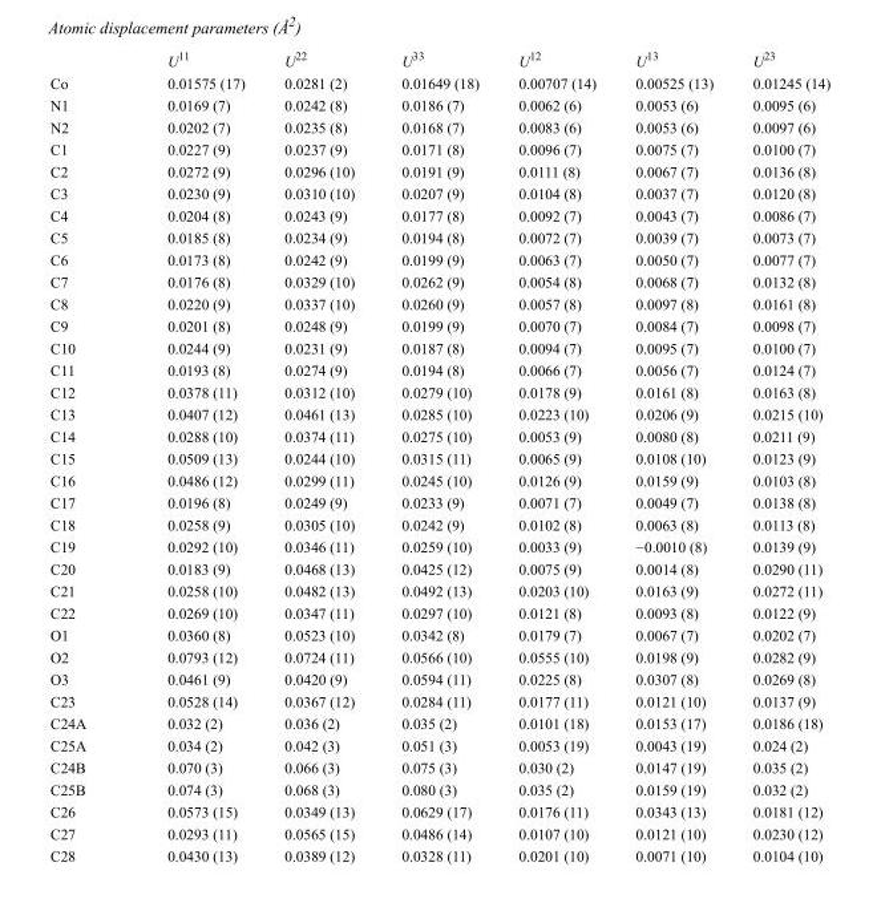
<table><thead><tr><td></td><td>U<sup>11</sup></td><td>U<sup>22</sup></td><td>U<sup>33</sup></td><td>U<sup>12</sup></td><td>U<sup>13</sup></td><td>U<sup>23</sup></td></tr></thead><tbody><tr><td>Co</td><td>0.01575 (17)</td><td>0.0281 (2)</td><td>0.01649 (18)</td><td>0.00707 (14)</td><td>0.00525 (13)</td><td>0.01245 (14)</td></tr><tr><td>N1</td><td>0.0169 (7)</td><td>0.0242 (8)</td><td>0.0186 (7)</td><td>0.0062 (6)</td><td>0.0053 (6)</td><td>0.0095 (6)</td></tr><tr><td>N2</td><td>0.0202 (7)</td><td>0.0235 (8)</td><td>0.0168 (7)</td><td>0.0083 (6)</td><td>0.0053 (6)</td><td>0.0097 (6)</td></tr><tr><td>C1</td><td>0.0227 (9)</td><td>0.0237 (9)</td><td>0.0171 (8)</td><td>0.0096 (7)</td><td>0.0075 (7)</td><td>0.0100 (7)</td></tr><tr><td>C2</td><td>0.0272 (9)</td><td>0.0296 (10)</td><td>0.0191 (9)</td><td>0.0111 (8)</td><td>0.0067 (7)</td><td>0.0136 (8)</td></tr><tr><td>C3</td><td>0.0230 (9)</td><td>0.0310 (10)</td><td>0.0207 (9)</td><td>0.0104 (8)</td><td>0.0037 (7)</td><td>0.0120 (8)</td></tr><tr><td>C4</td><td>0.0204 (8)</td><td>0.0243 (9)</td><td>0.0177 (8)</td><td>0.0092 (7)</td><td>0.0043 (7)</td><td>0.0086 (7)</td></tr><tr><td>C5</td><td>0.0185 (8)</td><td>0.0234 (9)</td><td>0.0194 (8)</td><td>0.0072 (7)</td><td>0.0039 (7)</td><td>0.0073 (7)</td></tr><tr><td>C6</td><td>0.0173 (8)</td><td>0.0242 (9)</td><td>0.0199 (9)</td><td>0.0063 (7)</td><td>0.0050 (7)</td><td>0.0077 (7)</td></tr><tr><td>C7</td><td>0.0176 (8)</td><td>0.0329 (10)</td><td>0.0262 (9)</td><td>0.0054 (8)</td><td>0.0068 (7)</td><td>0.0132 (8)</td></tr><tr><td>C8</td><td>0.0220 (9)</td><td>0.0337 (10)</td><td>0.0260 (9)</td><td>0.0057 (8)</td><td>0.0097 (8)</td><td>0.0161 (8)</td></tr><tr><td>C9</td><td>0.0201 (8)</td><td>0.0248 (9)</td><td>0.0199 (9)</td><td>0.0070 (7)</td><td>0.0084 (7)</td><td>0.0098 (7)</td></tr><tr><td>C10</td><td>0.0244 (9)</td><td>0.0231 (9)</td><td>0.0187 (8)</td><td>0.0094 (7)</td><td>0.0095 (7)</td><td>0.0100 (7)</td></tr><tr><td>C11</td><td>0.0193 (8)</td><td>0.0274 (9)</td><td>0.0194 (8)</td><td>0.0066 (7)</td><td>0.0056 (7)</td><td>0.0124 (7)</td></tr><tr><td>C12</td><td>0.0378 (11)</td><td>0.0312 (10)</td><td>0.0279 (10)</td><td>0.0178 (9)</td><td>0.0161 (8)</td><td>0.0163 (8)</td></tr><tr><td>C13</td><td>0.0407 (12)</td><td>0.0461 (13)</td><td>0.0285 (10)</td><td>0.0223 (10)</td><td>0.0206 (9)</td><td>0.0215 (10)</td></tr><tr><td>C14</td><td>0.0288 (10)</td><td>0.0374 (11)</td><td>0.0275 (10)</td><td>0.0053 (9)</td><td>0.0080 (8)</td><td>0.0211 (9)</td></tr><tr><td>C15</td><td>0.0509 (13)</td><td>0.0244 (10)</td><td>0.0315 (11)</td><td>0.0065 (9)</td><td>0.0108 (10)</td><td>0.0123 (9)</td></tr><tr><td>C16</td><td>0.0486 (12)</td><td>0.0299 (11)</td><td>0.0245 (10)</td><td>0.0126 (9)</td><td>0.0159 (9)</td><td>0.0103 (8)</td></tr><tr><td>C17</td><td>0.0196 (8)</td><td>0.0249 (9)</td><td>0.0233 (9)</td><td>0.0071 (7)</td><td>0.0049 (7)</td><td>0.0138 (8)</td></tr><tr><td>C18</td><td>0.0258 (9)</td><td>0.0305 (10)</td><td>0.0242 (9)</td><td>0.0102 (8)</td><td>0.0063 (8)</td><td>0.0113 (8)</td></tr><tr><td>C19</td><td>0.0292 (10)</td><td>0.0346 (11)</td><td>0.0259 (10)</td><td>0.0033 (9)</td><td>−0.0010 (8)</td><td>0.0139 (9)</td></tr><tr><td>C20</td><td>0.0183 (9)</td><td>0.0468 (13)</td><td>0.0425 (12)</td><td>0.0075 (9)</td><td>0.0014 (8)</td><td>0.0290 (11)</td></tr><tr><td>C21</td><td>0.0258 (10)</td><td>0.0482 (13)</td><td>0.0492 (13)</td><td>0.0203 (10)</td><td>0.0163 (9)</td><td>0.0272 (11)</td></tr><tr><td>C22</td><td>0.0269 (10)</td><td>0.0347 (11)</td><td>0.0297 (10)</td><td>0.0121 (8)</td><td>0.0093 (8)</td><td>0.0122 (9)</td></tr><tr><td>O1</td><td>0.0360 (8)</td><td>0.0523 (10)</td><td>0.0342 (8)</td><td>0.0179 (7)</td><td>0.0067 (7)</td><td>0.0202 (7)</td></tr><tr><td>O2</td><td>0.0793 (12)</td><td>0.0724 (11)</td><td>0.0566 (10)</td><td>0.0555 (10)</td><td>0.0198 (9)</td><td>0.0282 (9)</td></tr><tr><td>O3</td><td>0.0461 (9)</td><td>0.0420 (9)</td><td>0.0594 (11)</td><td>0.0225 (8)</td><td>0.0307 (8)</td><td>0.0269 (8)</td></tr><tr><td>C23</td><td>0.0528 (14)</td><td>0.0367 (12)</td><td>0.0284 (11)</td><td>0.0177 (11)</td><td>0.0121 (10)</td><td>0.0137 (9)</td></tr><tr><td>C24A</td><td>0.032 (2)</td><td>0.036 (2)</td><td>0.035 (2)</td><td>0.0101 (18)</td><td>0.0153 (17)</td><td>0.0186 (18)</td></tr><tr><td>C25A</td><td>0.034 (2)</td><td>0.042 (3)</td><td>0.051 (3)</td><td>0.0053 (19)</td><td>0.0043 (19)</td><td>0.024 (2)</td></tr><tr><td>C24B</td><td>0.070 (3)</td><td>0.066 (3)</td><td>0.075 (3)</td><td>0.030 (2)</td><td>0.0147 (19)</td><td>0.035 (2)</td></tr><tr><td>C25B</td><td>0.074 (3)</td><td>0.068 (3)</td><td>0.080 (3)</td><td>0.035 (2)</td><td>0.0159 (19)</td><td>0.032 (2)</td></tr><tr><td>C26</td><td>0.0573 (15)</td><td>0.0349 (13)</td><td>0.0629 (17)</td><td>0.0176 (11)</td><td>0.0343 (13)</td><td>0.0181 (12)</td></tr><tr><td>C27</td><td>0.0293 (11)</td><td>0.0565 (15)</td><td>0.0486 (14)</td><td>0.0107 (10)</td><td>0.0121 (10)</td><td>0.0230 (12)</td></tr><tr><td>C28</td><td>0.0430 (13)</td><td>0.0389 (12)</td><td>0.0328 (11)</td><td>0.0201 (10)</td><td>0.0071 (10)</td><td>0.0104 (10)</td></tr></tbody></table>